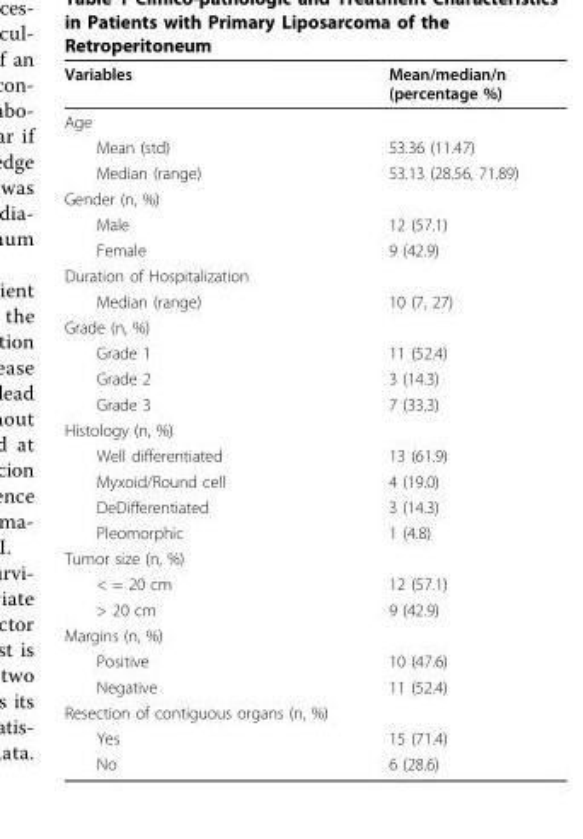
<table><thead><tr><td>Variables</td><td>Mean/median/n (percentage %)</td></tr></thead><tbody><tr><td colspan="2">Age</td></tr><tr><td>Mean (std)</td><td>53.36 (11.47)</td></tr><tr><td>Median (range)</td><td>53.13 (28.56, 71.89)</td></tr><tr><td colspan="2">Gender (n, %)</td></tr><tr><td>Male</td><td>12 (57.1)</td></tr><tr><td>Female</td><td>9 (42.9)</td></tr><tr><td colspan="2">Duration of Hospitalization</td></tr><tr><td>Median (range)</td><td>10 (7, 27)</td></tr><tr><td colspan="2">Grade (n, %)</td></tr><tr><td>Grade 1</td><td>11 (52.4)</td></tr><tr><td>Grade 2</td><td>3 (14.3)</td></tr><tr><td>Grade 3</td><td>7 (33.3)</td></tr><tr><td colspan="2">Histology (n, %)</td></tr><tr><td>Well differentiated</td><td>13 (61.9)</td></tr><tr><td>Myxoid/Round cell</td><td>4 (19.0)</td></tr><tr><td>DeDifferentiated</td><td>3 (14.3)</td></tr><tr><td>Pleomorphic</td><td>1 (4.8)</td></tr><tr><td colspan="2">Tumor size (n, %)</td></tr><tr><td>&lt; = 20 cm</td><td>12 (57.1)</td></tr><tr><td>&gt; 20 cm</td><td>9 (42.9)</td></tr><tr><td colspan="2">Margins (n, %)</td></tr><tr><td>Positive</td><td>10 (47.6)</td></tr><tr><td>Negative</td><td>11 (52.4)</td></tr><tr><td colspan="2">Resection of contiguous organs (n, %)</td></tr><tr><td>Yes</td><td>15 (71.4)</td></tr><tr><td>No</td><td>6 (28.6)</td></tr></tbody></table>